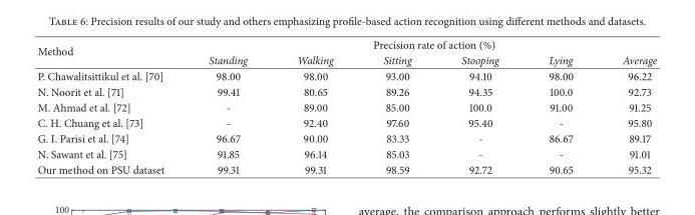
<table><thead><tr><td rowspan="2">Method</td><td colspan="6">Precision rate of action (%)</td></tr><tr><td>Standing</td><td>Walking</td><td>Sitting</td><td>Stooping</td><td>Lying</td><td>Average</td></tr></thead><tbody><tr><td>P. Chawalitsittikul et al. [70]</td><td>98.00</td><td>98.00</td><td>93.00</td><td>94.10</td><td>98.00</td><td>96.22</td></tr><tr><td>N. Noorit et al. [71]</td><td>99.41</td><td>80.65</td><td>89.26</td><td>94.35</td><td>100.0</td><td>92.73</td></tr><tr><td>M. Ahmad et al. [72]</td><td>-</td><td>89.00</td><td>85.00</td><td>100.0</td><td>91.00</td><td>91.25</td></tr><tr><td>C. H. Chuang et al. [73]</td><td>-</td><td>92.40</td><td>97.60</td><td>95.40</td><td>-</td><td>95.80</td></tr><tr><td>G. I. Parisi et al. [74]</td><td>96.67</td><td>90.00</td><td>83.33</td><td>-</td><td>86.67</td><td>89.17</td></tr><tr><td>N. Sawant et al. [75]</td><td>91.85</td><td>96.14</td><td>85.03</td><td>-</td><td>-</td><td>91.01</td></tr><tr><td>Our method on PSU dataset</td><td>99.31</td><td>99.31</td><td>98.59</td><td>92.72</td><td>90.65</td><td>95.32</td></tr></tbody></table>